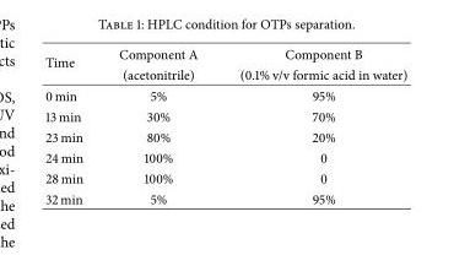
<table><thead><tr><td rowspan="2">Time</td><td rowspan="2">Component A (acetonitrile)</td><td rowspan="2">Component B (0.1% v/v formic acid in water)</td></tr><tr></tr></thead><tbody><tr><td>0 min</td><td>5%</td><td>95%</td></tr><tr><td>13 min</td><td>30%</td><td>70%</td></tr><tr><td>23 min</td><td>80%</td><td>20%</td></tr><tr><td>24 min</td><td>100%</td><td>0</td></tr><tr><td>28 min</td><td>100%</td><td>0</td></tr><tr><td>32 min</td><td>5%</td><td>95%</td></tr></tbody></table>